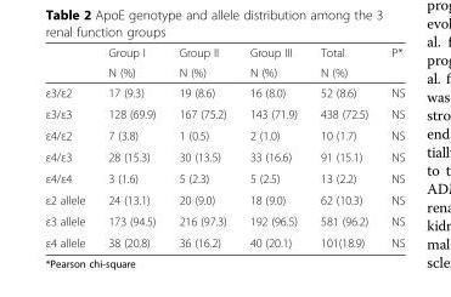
<table><thead><tr><td rowspan="2"></td><td rowspan="2">Group I N (%)</td><td rowspan="2">Group II N (%)</td><td rowspan="2">Group III N (%)</td><td rowspan="2">Total N (%)</td><td rowspan="2">P*</td></tr><tr></tr></thead><tbody><tr><td>ε3/ε2</td><td>17 (9.3)</td><td>19 (8.6)</td><td>16 (8.0)</td><td>52 (8.6)</td><td>NS</td></tr><tr><td>ε3/ε3</td><td>128 (69.9)</td><td>167 (75.2)</td><td>143 (71.9)</td><td>438 (72.5)</td><td>NS</td></tr><tr><td>ε4/ε2</td><td>7 (3.8)</td><td>1 (0.5)</td><td>2 (1.0)</td><td>10 (1.7)</td><td>NS</td></tr><tr><td>ε4/ε3</td><td>28 (15.3)</td><td>30 (13.5)</td><td>33 (16.6)</td><td>91 (15.1)</td><td>NS</td></tr><tr><td>ε4/ε4</td><td>3 (1.6)</td><td>5 (2.3)</td><td>5 (2.5)</td><td>13 (2.2)</td><td>NS</td></tr><tr><td>ε2 allele</td><td>24 (13.1)</td><td>20 (9.0)</td><td>18 (9.0)</td><td>62 (10.3)</td><td>NS</td></tr><tr><td>ε3 allele</td><td>173 (94.5)</td><td>216 (97.3)</td><td>192 (96.5)</td><td>581 (96.2)</td><td>NS</td></tr><tr><td>ε4 allele</td><td>38 (20.8)</td><td>36 (16.2)</td><td>40 (20.1)</td><td>101(18.9)</td><td>NS</td></tr></tbody></table>